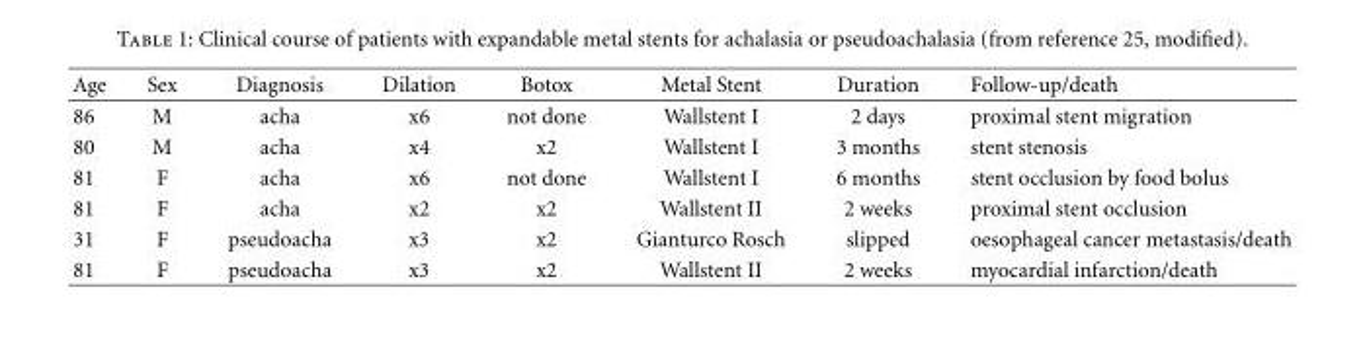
<table><thead><tr><td>Age</td><td>Sex</td><td>Diagnosis</td><td>Dilation</td><td>Botox</td><td>Metal Stent</td><td>Duration</td><td>Follow-up/death</td></tr></thead><tbody><tr><td>86</td><td>M</td><td>acha</td><td>x6</td><td>not done</td><td>Wallstent I</td><td>2 days</td><td>proximal stent migration</td></tr><tr><td>80</td><td>M</td><td>acha</td><td>x4</td><td>x2</td><td>Wallstent I</td><td>3 months</td><td>stent stenosis</td></tr><tr><td>81</td><td>F</td><td>acha</td><td>x6</td><td>not done</td><td>Wallstent I</td><td>6 months</td><td>stent occlusion by food bolus</td></tr><tr><td>81</td><td>F</td><td>acha</td><td>x2</td><td>x2</td><td>Wallstent II</td><td>2 weeks</td><td>proximal stent occlusion</td></tr><tr><td>31</td><td>F</td><td>pseudoacha</td><td>x3</td><td>x2</td><td>Gianturco Rosch</td><td>slipped</td><td>oesophageal cancer metastasis/death</td></tr><tr><td>81</td><td>F</td><td>pseudoacha</td><td>x3</td><td>x2</td><td>Wallstent II</td><td>2 weeks</td><td>myocardial infarction/death</td></tr></tbody></table>